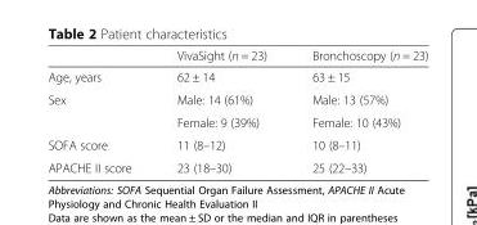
<table><thead><tr><td></td><td>VivaSight (n = 23)</td><td>Bronchoscopy (n = 23)</td></tr></thead><tbody><tr><td>Age, years</td><td>62 ± 14</td><td>63 ± 15</td></tr><tr><td rowspan="2">Sex</td><td>Male: 14 (61%)</td><td>Male: 13 (57%)</td></tr><tr><td>Female: 9 (39%)</td><td>Female: 10 (43%)</td></tr><tr><td>SOFA score</td><td>11 (8–12)</td><td>10 (8–11)</td></tr><tr><td>APACHE II score</td><td>23 (18–30)</td><td>25 (22–33)</td></tr></tbody></table>